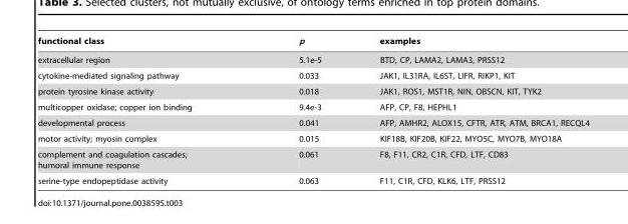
<table><thead><tr><td>functional class</td><td>p</td><td>examples</td></tr></thead><tbody><tr><td>extracellular region</td><td>5.1e-5</td><td>BTD, CP, LAMA2, LAMA3, PRSS12</td></tr><tr><td>cytokine-mediated signaling pathway</td><td>0.033</td><td>JAK1, IL31RA, IL6ST, LIFR, RIKP1, KIT</td></tr><tr><td>protein tyrosine kinase activity</td><td>0.018</td><td>JAK1, ROS1, MST1R, NIN, OBSCN, KIT, TYK2</td></tr><tr><td>multicopper oxidase; copper ion binding</td><td>9.4e-3</td><td>AFP, CP, F8, HEPHL1</td></tr><tr><td>developmental process</td><td>0.041</td><td>AFP, AMHR2, ALOX15, CFTR, ATR, ATM, BRCA1, RECQL4</td></tr><tr><td>motor activity; myosin complex</td><td>0.015</td><td>KIF18B, KIF20B, KIF22, MYO5C, MYO7B, MYO18A</td></tr><tr><td>complement and coagulation cascades; humoral immune response</td><td>0.061</td><td>F8, F11, CR2, C1R, CFD, LTF, CD83</td></tr><tr><td>serine-type endopeptidase activity</td><td>0.063</td><td>F11, C1R, CFD, KLK6, LTF, PRSS12</td></tr></tbody></table>